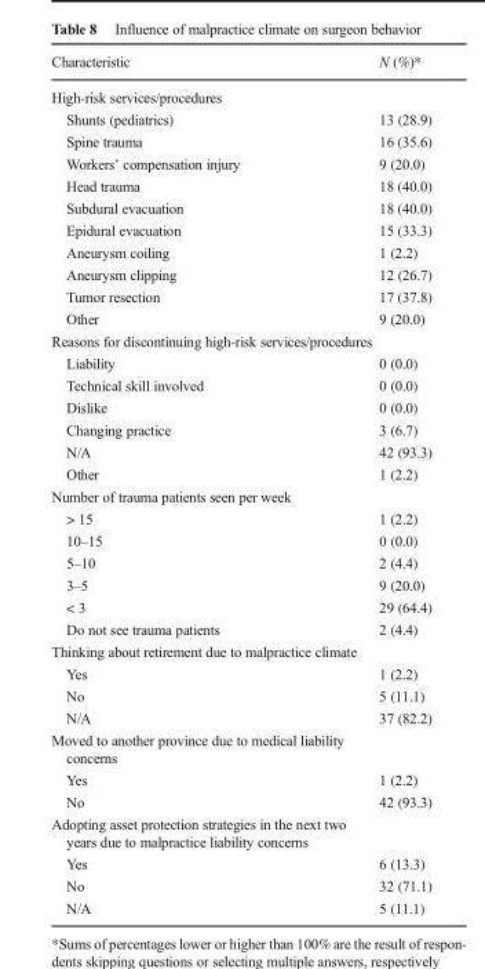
<table><thead><tr><td>Characteristic</td><td>N (%)*</td></tr></thead><tbody><tr><td colspan="2">High-risk services/procedures</td></tr><tr><td>Shunts (pediatrics)</td><td>13 (28.9)</td></tr><tr><td>Spine trauma</td><td>16 (35.6)</td></tr><tr><td>Workers’ compensation injury</td><td>9 (20.0)</td></tr><tr><td>Head trauma</td><td>18 (40.0)</td></tr><tr><td>Subdural evacuation</td><td>18 (40.0)</td></tr><tr><td>Epidural evacuation</td><td>15 (33.3)</td></tr><tr><td>Aneurysm coiling</td><td>1 (2.2)</td></tr><tr><td>Aneurysm clipping</td><td>12 (26.7)</td></tr><tr><td>Tumor resection</td><td>17 (37.8)</td></tr><tr><td>Other</td><td>9 (20.0)</td></tr><tr><td colspan="2">Reasons for discontinuing high-risk services/procedures</td></tr><tr><td>Liability</td><td>0 (0.0)</td></tr><tr><td>Technical skill involved</td><td>0 (0.0)</td></tr><tr><td>Dislike</td><td>0 (0.0)</td></tr><tr><td>Changing practice</td><td>3 (6.7)</td></tr><tr><td>N/A</td><td>42 (93.3)</td></tr><tr><td>Other</td><td>1 (2.2)</td></tr><tr><td colspan="2">Number of trauma patients seen per week</td></tr><tr><td>&gt; 15</td><td>1 (2.2)</td></tr><tr><td>10–15</td><td>0 (0.0)</td></tr><tr><td>5–10</td><td>2 (4.4)</td></tr><tr><td>3–5</td><td>9 (20.0)</td></tr><tr><td>&lt; 3</td><td>29 (64.4)</td></tr><tr><td>Do not see trauma patients</td><td>2 (4.4)</td></tr><tr><td colspan="2">Thinking about retirement due to malpractice climate</td></tr><tr><td>Yes</td><td>1 (2.2)</td></tr><tr><td>No</td><td>5 (11.1)</td></tr><tr><td>N/A</td><td>37 (82.2)</td></tr><tr><td colspan="2">Moved to another province due to medical liability concerns</td></tr><tr><td>Yes</td><td>1 (2.2)</td></tr><tr><td>No</td><td>42 (93.3)</td></tr><tr><td colspan="2">Adopting asset protection strategies in the next two years due to malpractice liability concerns</td></tr><tr><td>Yes</td><td>6 (13.3)</td></tr><tr><td>No</td><td>32 (71.1)</td></tr><tr><td>N/A</td><td>5 (11.1)</td></tr></tbody></table>